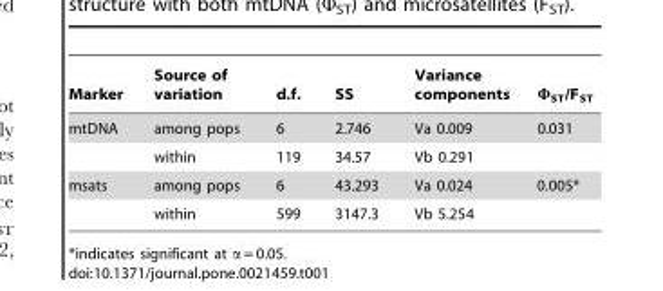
<table><thead><tr><td>Marker</td><td>Source of variation</td><td>d.f.</td><td>SS</td><td>Variance components</td><td>Φ<sub>ST</sub>/F<sub>ST</sub></td></tr></thead><tbody><tr><td rowspan="2">mtDNA</td><td>among pops</td><td>6</td><td>2.746</td><td>Va 0.009</td><td>0.031</td></tr><tr><td>within</td><td>119</td><td>34.57</td><td>Vb 0.291</td><td></td></tr><tr><td rowspan="2">msats</td><td>among pops</td><td>6</td><td>43.293</td><td>Va 0.024</td><td>0.005*</td></tr><tr><td>within</td><td>599</td><td>3147.3</td><td>Vb 5.254</td><td></td></tr></tbody></table>